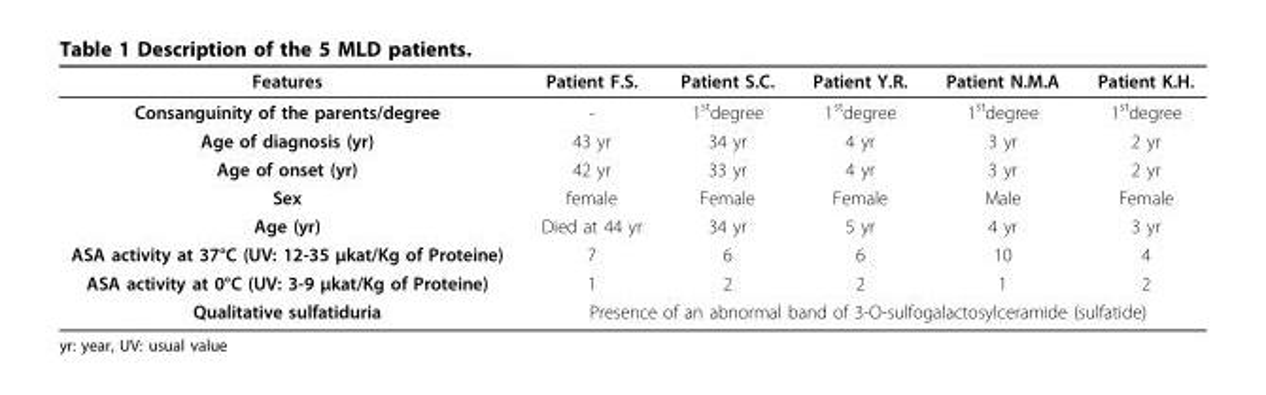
<table><thead><tr><td>Features</td><td>Patient F.S.</td><td>Patient S.C.</td><td>Patient Y.R.</td><td>Patient N.M.A</td><td>Patient K.H.</td></tr></thead><tbody><tr><td>Consanguinity of the parents/degree</td><td>-</td><td>1<sup>st</sup>degree</td><td>1<sup>st</sup>degree</td><td>1<sup>st</sup>degree</td><td>1<sup>st</sup>degree</td></tr><tr><td>Age of diagnosis (yr)</td><td>43 yr</td><td>34 yr</td><td>4 yr</td><td>3 yr</td><td>2 yr</td></tr><tr><td>Age of onset (yr)</td><td>42 yr</td><td>33 yr</td><td>4 yr</td><td>3 yr</td><td>2 yr</td></tr><tr><td>Sex</td><td>female</td><td>Female</td><td>Female</td><td>Male</td><td>Female</td></tr><tr><td>Age (yr)</td><td>Died at 44 yr</td><td>34 yr</td><td>5 yr</td><td>4 yr</td><td>3 yr</td></tr><tr><td>ASA activity at 37°C (UV: 12-35 μkat/Kg of Proteine)</td><td>7</td><td>6</td><td>6</td><td>10</td><td>4</td></tr><tr><td>ASA activity at 0°C (UV: 3-9 μkat/Kg of Proteine)</td><td>1</td><td>2</td><td>2</td><td>1</td><td>2</td></tr><tr><td>Qualitative sulfatiduria</td><td colspan="5">Presence of an abnormal band of 3-O-sulfogalactosylceramide (sulfatide)</td></tr></tbody></table>